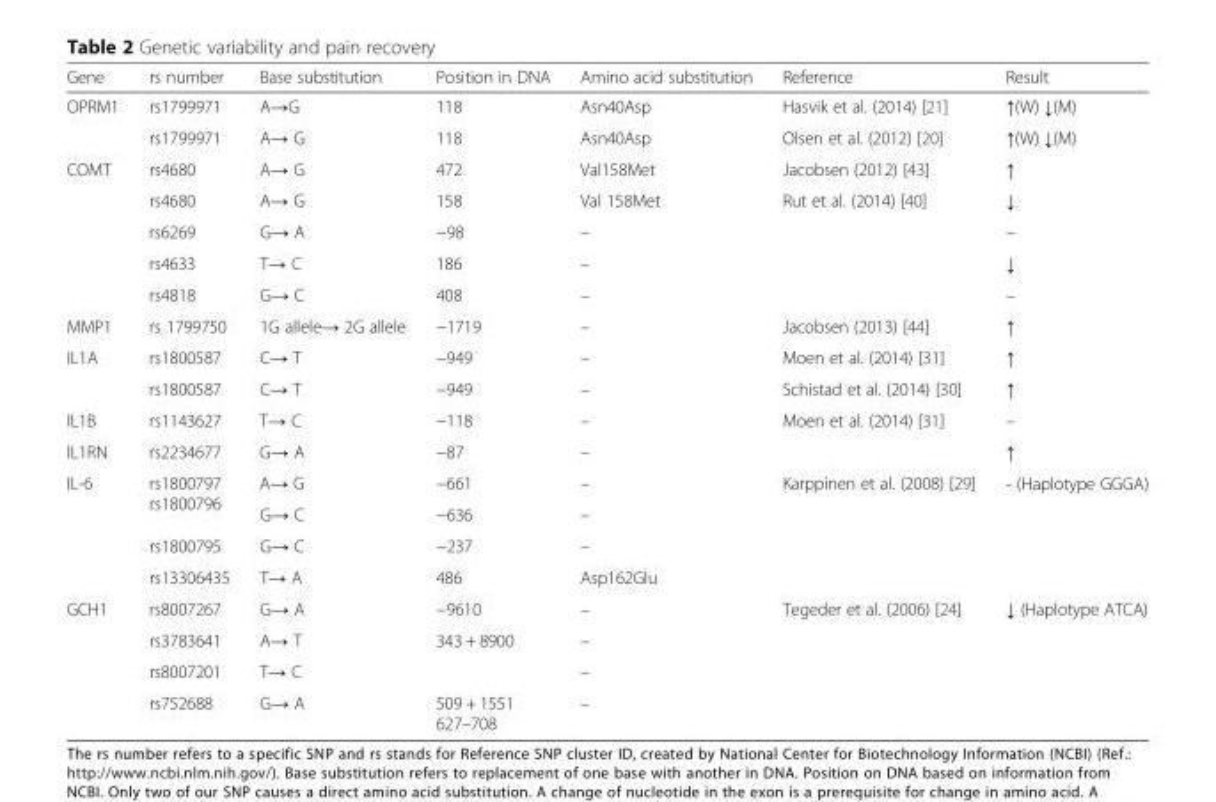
<table><thead><tr><td>Gene</td><td>rs number</td><td>Base substitution</td><td>Position in DNA</td><td>Amino acid substitution</td><td>Reference</td><td>Result</td></tr></thead><tbody><tr><td rowspan="2">OPRM1</td><td>rs1799971</td><td>A→G</td><td>118</td><td>Asn40Asp</td><td>Hasvik et al. (2014) [21]</td><td>↑(W) ↓(M)</td></tr><tr><td>rs1799971</td><td>A→ G</td><td>118</td><td>Asn40Asp</td><td>Olsen et al. (2012) [20]</td><td>↑(W) ↓(M)</td></tr><tr><td rowspan="5">COMT</td><td>rs4680</td><td>A→ G</td><td>472</td><td>Val158Met</td><td>Jacobsen (2012) [43]</td><td>↑</td></tr><tr><td>rs4680</td><td>A→ G</td><td>158</td><td>Val 158Met</td><td rowspan="4">Rut et al. (2014) [40]</td><td>↓</td></tr><tr><td>rs6269</td><td>G→ A</td><td>−98</td><td>–</td><td>–</td></tr><tr><td>rs4633</td><td>T→ C</td><td>186</td><td>–</td><td>↓</td></tr><tr><td>rs4818</td><td>G→ C</td><td>408</td><td>–</td><td>–</td></tr><tr><td>MMP1</td><td>rs 1799750</td><td>1G allele→ 2G allele</td><td>−1719</td><td>–</td><td>Jacobsen (2013) [44]</td><td>↑</td></tr><tr><td rowspan="2">IL1A</td><td>rs1800587</td><td>C→ T</td><td>−949</td><td>–</td><td>Moen et al. (2014) [31]</td><td>↑</td></tr><tr><td>rs1800587</td><td>C→ T</td><td>−949</td><td>–</td><td>Schistad et al. (2014) [30]</td><td>↑</td></tr><tr><td>IL1B</td><td>rs1143627</td><td>T→ C</td><td>−118</td><td>–</td><td rowspan="2">Moen et al. (2014) [31]</td><td>–</td></tr><tr><td>IL1RN</td><td>rs2234677</td><td>G→ A</td><td>−87</td><td>–</td><td>↑</td></tr><tr><td rowspan="4">IL-6</td><td rowspan="2">rs1800797 rs1800796</td><td>A→ G</td><td>−661</td><td>–</td><td rowspan="4">Karppinen et al. (2008) [29]</td><td rowspan="4">- (Haplotype GGGA)</td></tr><tr><td>G→ C</td><td>−636</td><td>–</td></tr><tr><td>rs1800795</td><td>G→ C</td><td>−237</td><td>–</td></tr><tr><td>rs13306435</td><td>T→ A</td><td>486</td><td>Asp162Glu</td></tr><tr><td rowspan="4">GCH1</td><td>rs8007267</td><td>G→ A</td><td>−9610</td><td>–</td><td rowspan="4">Tegeder et al. (2006) [24]</td><td rowspan="4">↓ (Haplotype ATCA)</td></tr><tr><td>rs3783641</td><td>A→ T</td><td>343 + 8900</td><td>–</td></tr><tr><td>rs8007201</td><td>T→ C</td><td></td><td>–</td></tr><tr><td>rs752688</td><td>G→ A</td><td>509 + 1551 627–708</td><td>–</td></tr></tbody></table>